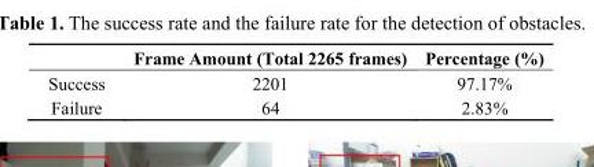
<table><thead><tr><td></td><td>Frame Amount (Total 2265 frames)</td><td>Percentage (%)</td></tr></thead><tbody><tr><td>Success</td><td>2201</td><td>97.17%</td></tr><tr><td>Failure</td><td>64</td><td>2.83%</td></tr></tbody></table>